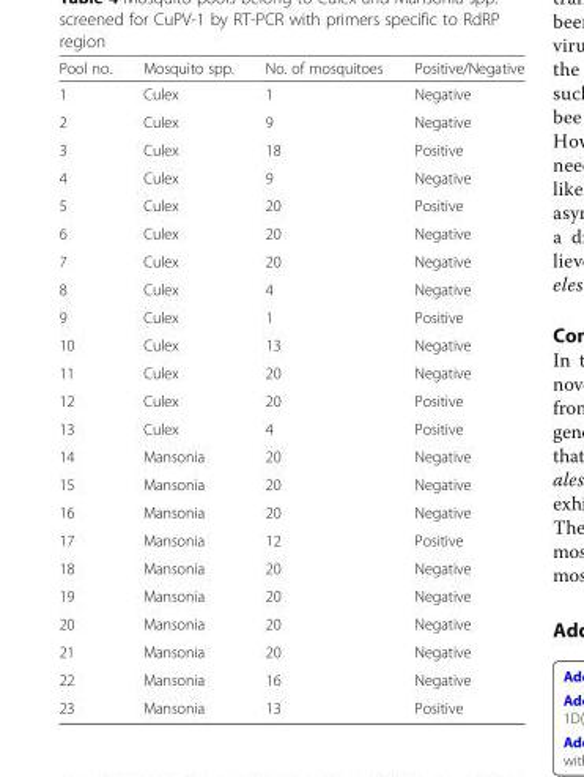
<table><thead><tr><td>Pool no.</td><td>Mosquito spp.</td><td>No. of mosquitoes</td><td>Positive/Negative</td></tr></thead><tbody><tr><td>1</td><td>Culex</td><td>1</td><td>Negative</td></tr><tr><td>2</td><td>Culex</td><td>9</td><td>Negative</td></tr><tr><td>3</td><td>Culex</td><td>18</td><td>Positive</td></tr><tr><td>4</td><td>Culex</td><td>9</td><td>Negative</td></tr><tr><td>5</td><td>Culex</td><td>20</td><td>Positive</td></tr><tr><td>6</td><td>Culex</td><td>20</td><td>Negative</td></tr><tr><td>7</td><td>Culex</td><td>20</td><td>Negative</td></tr><tr><td>8</td><td>Culex</td><td>4</td><td>Negative</td></tr><tr><td>9</td><td>Culex</td><td>1</td><td>Positive</td></tr><tr><td>10</td><td>Culex</td><td>13</td><td>Negative</td></tr><tr><td>11</td><td>Culex</td><td>20</td><td>Negative</td></tr><tr><td>12</td><td>Culex</td><td>20</td><td>Positive</td></tr><tr><td>13</td><td>Culex</td><td>4</td><td>Positive</td></tr><tr><td>14</td><td>Mansonia</td><td>20</td><td>Negative</td></tr><tr><td>15</td><td>Mansonia</td><td>20</td><td>Negative</td></tr><tr><td>16</td><td>Mansonia</td><td>20</td><td>Negative</td></tr><tr><td>17</td><td>Mansonia</td><td>12</td><td>Positive</td></tr><tr><td>18</td><td>Mansonia</td><td>20</td><td>Negative</td></tr><tr><td>19</td><td>Mansonia</td><td>20</td><td>Negative</td></tr><tr><td>20</td><td>Mansonia</td><td>20</td><td>Negative</td></tr><tr><td>21</td><td>Mansonia</td><td>20</td><td>Negative</td></tr><tr><td>22</td><td>Mansonia</td><td>16</td><td>Negative</td></tr><tr><td>23</td><td>Mansonia</td><td>13</td><td>Positive</td></tr></tbody></table>